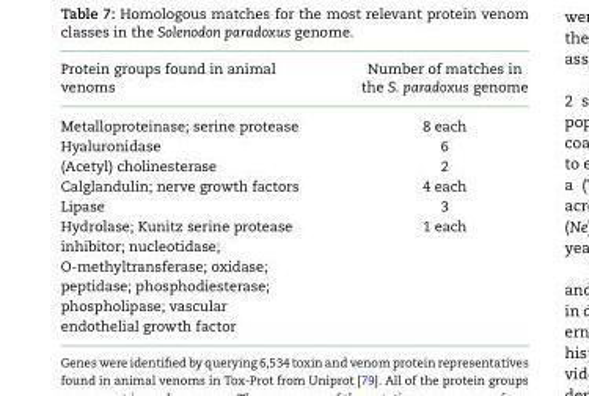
<table><thead><tr><td>Protein groups found in animal venoms</td><td>Number of matches in the S. paradoxus genome</td></tr></thead><tbody><tr><td>Metalloproteinase; serine protease</td><td>8 each</td></tr><tr><td>Hyaluronidase</td><td>6</td></tr><tr><td>(Acetyl) cholinesterase</td><td>2</td></tr><tr><td>Calglandulin; nerve growth factors</td><td>4 each</td></tr><tr><td>Lipase</td><td>3</td></tr><tr><td>Hydrolase; Kunitz serine protease inhibitor; nucleotidase; O-methyltransferase; oxidase; peptidase; phosphodiesterase; phospholipase; vascular endothelial growth factor</td><td>1 each</td></tr></tbody></table>